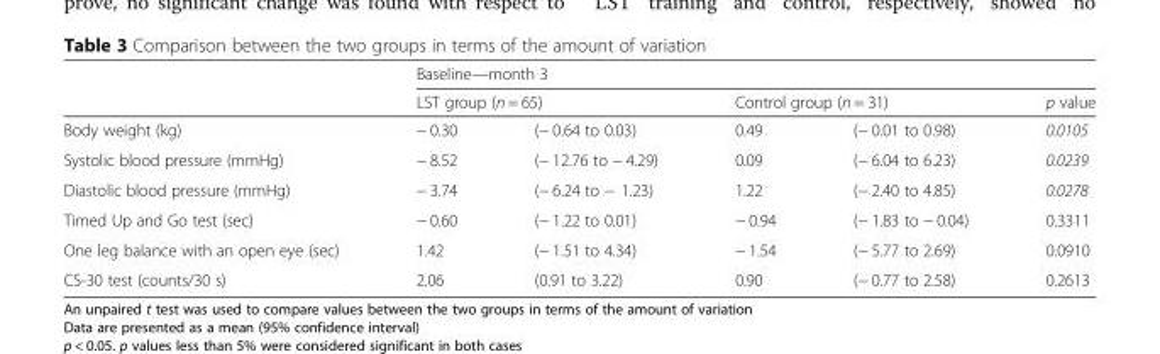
<table><thead><tr><td rowspan="3">Body weight (kg)</td><td colspan="5">Baseline—month 3</td></tr><tr><td colspan="2">LST group (n = 65)</td><td colspan="2">Control group (n = 31)</td><td rowspan="2">p value 0.0105</td></tr><tr><td>− 0.30</td><td>(− 0.64 to 0.03)</td><td>0.49</td><td>(− 0.01 to 0.98)</td></tr></thead><tbody><tr><td>Systolic blood pressure (mmHg)</td><td>− 8.52</td><td>(− 12.76 to − 4.29)</td><td>0.09</td><td>(− 6.04 to 6.23)</td><td>0.0239</td></tr><tr><td>Diastolic blood pressure (mmHg)</td><td>− 3.74</td><td>(− 6.24 to − 1.23)</td><td>1.22</td><td>(− 2.40 to 4.85)</td><td>0.0278</td></tr><tr><td>Timed Up and Go test (sec)</td><td>− 0.60</td><td>(− 1.22 to 0.01)</td><td>− 0.94</td><td>(− 1.83 to − 0.04)</td><td>0.3311</td></tr><tr><td>One leg balance with an open eye (sec)</td><td>1.42</td><td>(− 1.51 to 4.34)</td><td>− 1.54</td><td>(− 5.77 to 2.69)</td><td>0.0910</td></tr><tr><td>CS-30 test (counts/30 s)</td><td>2.06</td><td>(0.91 to 3.22)</td><td>0.90</td><td>(− 0.77 to 2.58)</td><td>0.2613</td></tr></tbody></table>